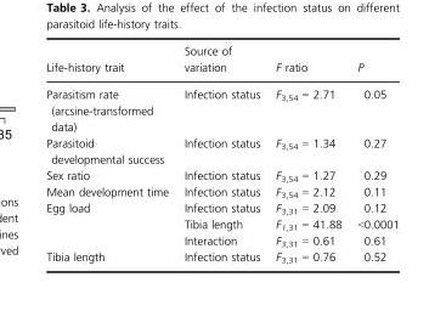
<table><thead><tr><td>Life-history trait</td><td>Source of variation</td><td>F ratio</td><td>P</td></tr></thead><tbody><tr><td>Parasitism rate (arcsine-transformed data)</td><td>Infection status</td><td>F<sub>3,54</sub> = 2.71</td><td>0.05</td></tr><tr><td>Parasitoid developmental success</td><td>Infection status</td><td>F<sub>3,54</sub> = 1.34</td><td>0.27</td></tr><tr><td>Sex ratio</td><td>Infection status</td><td>F<sub>3,54</sub> = 1.27</td><td>0.29</td></tr><tr><td>Mean development time</td><td>Infection status</td><td>F<sub>3,54</sub> = 2.12</td><td>0.11</td></tr><tr><td rowspan="3">Egg load</td><td>Infection status</td><td>F<sub>3,31</sub> = 2.09</td><td>0.12</td></tr><tr><td>Tibia length</td><td>F<sub>1,31</sub> = 41.88</td><td>&lt;0.0001</td></tr><tr><td>Interaction</td><td>F<sub>3,31</sub> = 0.61</td><td>0.61</td></tr><tr><td>Tibia length</td><td>Infection status</td><td>F<sub>3,31</sub> = 0.76</td><td>0.52</td></tr></tbody></table>